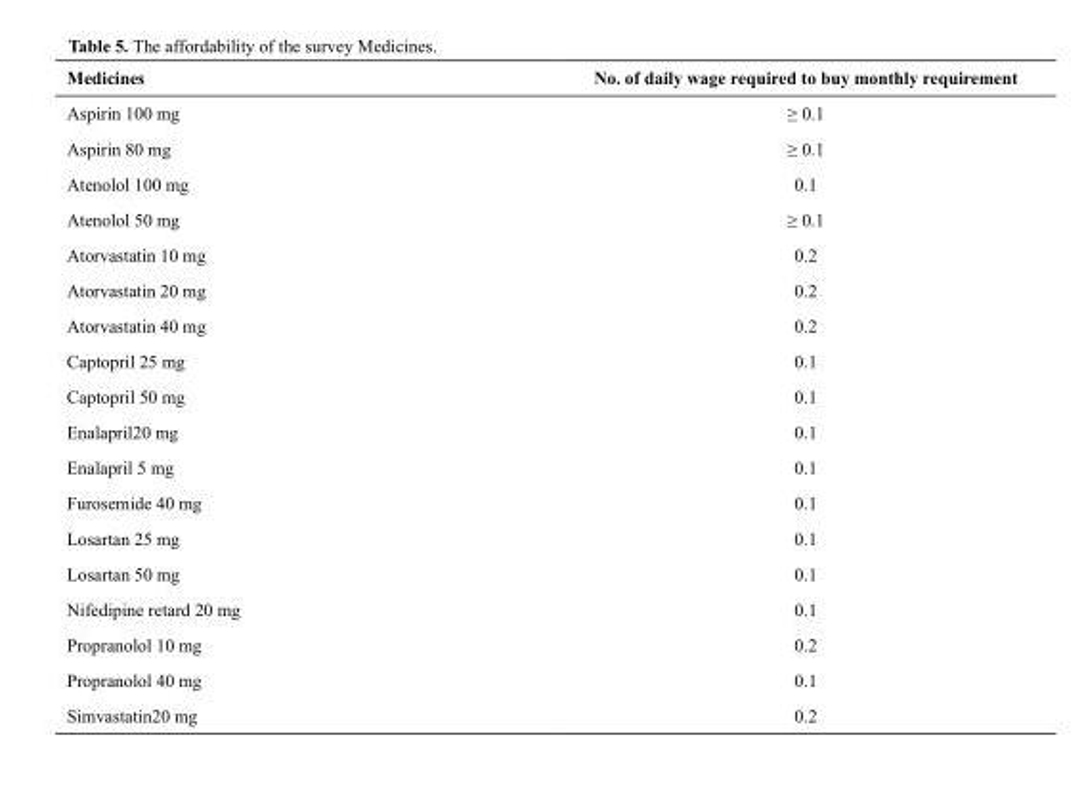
<table><thead><tr><td>Medicines</td><td>No. of daily wage required to buy monthly requirement</td></tr></thead><tbody><tr><td>Aspirin 100 mg</td><td>≥ 0.1</td></tr><tr><td>Aspirin 80 mg</td><td>≥ 0.1</td></tr><tr><td>Atenolol 100 mg</td><td>0.1</td></tr><tr><td>Atenolol 50 mg</td><td>≥ 0.1</td></tr><tr><td>Atorvastatin 10 mg</td><td>0.2</td></tr><tr><td>Atorvastatin 20 mg</td><td>0.2</td></tr><tr><td>Atorvastatin 40 mg</td><td>0.2</td></tr><tr><td>Captopril 25 mg</td><td>0.1</td></tr><tr><td>Captopril 50 mg</td><td>0.1</td></tr><tr><td>Enalapril20 mg</td><td>0.1</td></tr><tr><td>Enalapril 5 mg</td><td>0.1</td></tr><tr><td>Furosemide 40 mg</td><td>0.1</td></tr><tr><td>Losartan 25 mg</td><td>0.1</td></tr><tr><td>Losartan 50 mg</td><td>0.1</td></tr><tr><td>Nifedipine retard 20 mg</td><td>0.1</td></tr><tr><td>Propranolol 10 mg</td><td>0.2</td></tr><tr><td>Propranolol 40 mg</td><td>0.1</td></tr><tr><td>Simvastatin20 mg</td><td>0.2</td></tr></tbody></table>